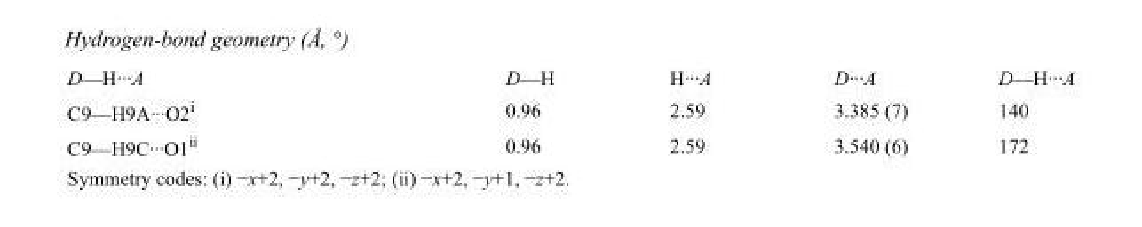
<table><tbody><tr><td>D—H···A</td><td>D—H</td><td>H···A</td><td>D···A</td><td>D—H···A</td></tr><tr><td>C9—H9A···O2<sup>i</sup></td><td>0.96</td><td>2.59</td><td>3.385 (7)</td><td>140</td></tr><tr><td>C9—H9C···O1<sup>ii</sup></td><td>0.96</td><td>2.59</td><td>3.540 (6)</td><td>172</td></tr></tbody></table>